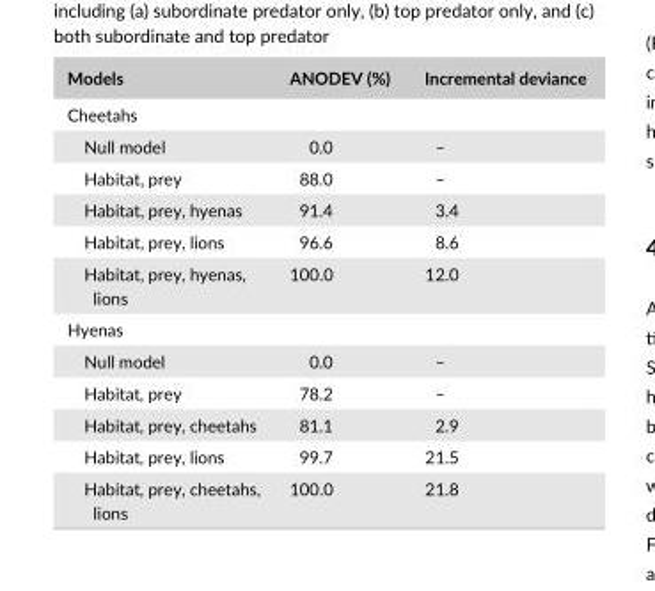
<table><thead><tr><td>Models</td><td>ANODEV (%)</td><td>Incremental deviance</td></tr></thead><tbody><tr><td colspan="3">Cheetahs</td></tr><tr><td>Null model</td><td>0.0</td><td>–</td></tr><tr><td>Habitat, prey</td><td>88.0</td><td>–</td></tr><tr><td>Habitat, prey, hyenas</td><td>91.4</td><td>3.4</td></tr><tr><td>Habitat, prey, lions</td><td>96.6</td><td>8.6</td></tr><tr><td>Habitat, prey, hyenas, lions</td><td>100.0</td><td>12.0</td></tr><tr><td colspan="3">Hyenas</td></tr><tr><td>Null model</td><td>0.0</td><td>–</td></tr><tr><td>Habitat, prey</td><td>78.2</td><td>–</td></tr><tr><td>Habitat, prey, cheetahs</td><td>81.1</td><td>2.9</td></tr><tr><td>Habitat, prey, lions</td><td>99.7</td><td>21.5</td></tr><tr><td>Habitat, prey, cheetahs, lions</td><td>100.0</td><td>21.8</td></tr></tbody></table>